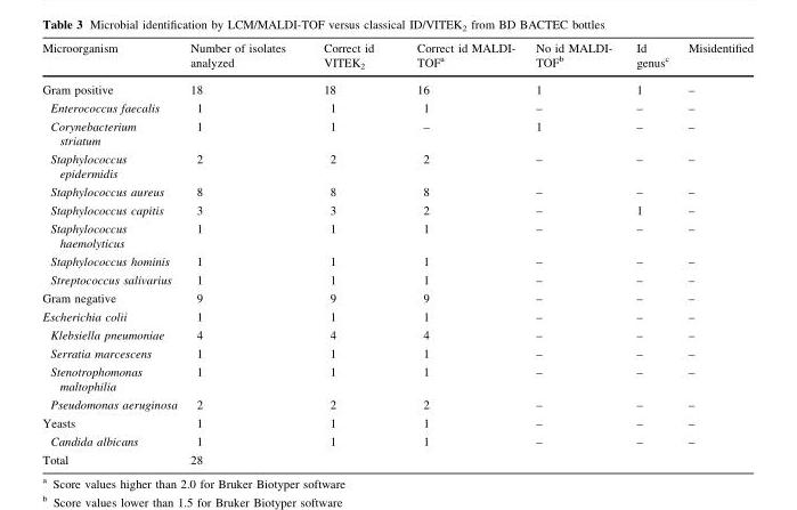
<table><thead><tr><td>Microorganism</td><td>Number of isolates analyzed</td><td>Correct id VITEK<sub>2</sub></td><td>Correct id MALDI- TOF<sup>a</sup></td><td>No id MALDI- TOF<sup>b</sup></td><td>Id genus<sup>c</sup></td><td>Misidentified</td></tr></thead><tbody><tr><td>Gram positive</td><td>18</td><td>18</td><td>16</td><td>1</td><td>1</td><td>–</td></tr><tr><td>Enterococcus faecalis</td><td>1</td><td>1</td><td>1</td><td>–</td><td>–</td><td>–</td></tr><tr><td>Corynebacterium striatum</td><td>1</td><td>1</td><td>–</td><td>1</td><td>–</td><td>–</td></tr><tr><td>Staphylococcus epidermidis</td><td>2</td><td>2</td><td>2</td><td>–</td><td>–</td><td>–</td></tr><tr><td>Staphylococcus aureus</td><td>8</td><td>8</td><td>8</td><td>–</td><td>–</td><td>–</td></tr><tr><td>Staphylococcus capitis</td><td>3</td><td>3</td><td>2</td><td>–</td><td>1</td><td>–</td></tr><tr><td>Staphylococcus haemolyticus</td><td>1</td><td>1</td><td>1</td><td>–</td><td>–</td><td>–</td></tr><tr><td>Staphylococcus hominis</td><td>1</td><td>1</td><td>1</td><td>–</td><td>–</td><td>–</td></tr><tr><td>Streptococcus salivarius</td><td>1</td><td>1</td><td>1</td><td>–</td><td>–</td><td>–</td></tr><tr><td>Gram negative</td><td>9</td><td>9</td><td>9</td><td>–</td><td>–</td><td>–</td></tr><tr><td>Escherichia colii</td><td>1</td><td>1</td><td>1</td><td>–</td><td>–</td><td>–</td></tr><tr><td>Klebsiella pneumoniae</td><td>4</td><td>4</td><td>4</td><td>–</td><td>–</td><td>–</td></tr><tr><td>Serratia marcescens</td><td>1</td><td>1</td><td>1</td><td>–</td><td>–</td><td>–</td></tr><tr><td>Stenotrophomonas maltophilia</td><td>1</td><td>1</td><td>1</td><td>–</td><td>–</td><td>–</td></tr><tr><td>Pseudomonas aeruginosa</td><td>2</td><td>2</td><td>2</td><td>–</td><td>–</td><td>–</td></tr><tr><td>Yeasts</td><td>1</td><td>1</td><td>1</td><td>–</td><td>–</td><td>–</td></tr><tr><td>Candida albicans</td><td>1</td><td>1</td><td>1</td><td>–</td><td>–</td><td>–</td></tr><tr><td>Total</td><td>28</td><td></td><td></td><td></td><td></td><td></td></tr></tbody></table>